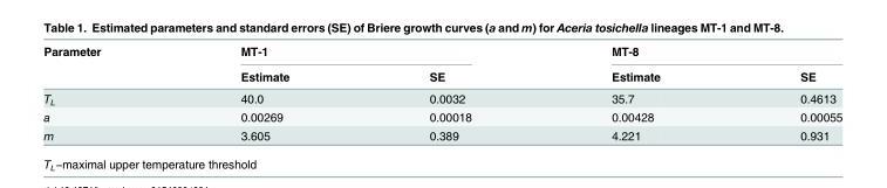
<table><thead><tr><td rowspan="2">Parameter</td><td colspan="2">MT-1</td><td colspan="2">MT-8</td></tr><tr><td>Estimate</td><td>SE</td><td>Estimate</td><td>SE</td></tr></thead><tbody><tr><td>T<sub>L</sub></td><td>40.0</td><td>0.0032</td><td>35.7</td><td>0.4613</td></tr><tr><td>a</td><td>0.00269</td><td>0.00018</td><td>0.00428</td><td>0.00055</td></tr><tr><td>m</td><td>3.605</td><td>0.389</td><td>4.221</td><td>0.931</td></tr></tbody></table>